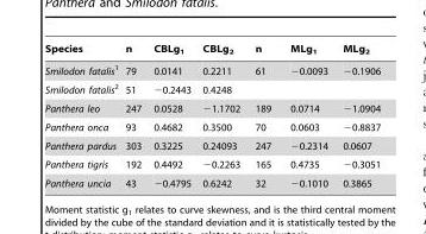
<table><thead><tr><td>Species</td><td>n</td><td>CBLg<sub>1</sub></td><td>CBLg<sub>2</sub></td><td>n</td><td>MLg<sub>1</sub></td><td>MLg<sub>2</sub></td></tr></thead><tbody><tr><td>Smilodon fatalis1</td><td>79</td><td>0.0141</td><td>0.2211</td><td>61</td><td>−0.0093</td><td>−0.1906</td></tr><tr><td>Smilodon fatalis2</td><td>51</td><td>−0.2443</td><td>0.4248</td><td></td><td></td><td></td></tr><tr><td>Panthera leo</td><td>247</td><td>0.0528</td><td>−1.1702</td><td>189</td><td>0.0714</td><td>−1.0904</td></tr><tr><td>Panthera onca</td><td>93</td><td>0.4682</td><td>0.3500</td><td>70</td><td>0.0603</td><td>−0.8837</td></tr><tr><td>Panthera pardus</td><td>303</td><td>0.3225</td><td>0.24093</td><td>247</td><td>−0.2314</td><td>0.0607</td></tr><tr><td>Panthera tigris</td><td>192</td><td>0.4492</td><td>−0.2263</td><td>165</td><td>0.4735</td><td>−0.3051</td></tr><tr><td>Panthera uncia</td><td>43</td><td>−0.4795</td><td>0.6242</td><td>32</td><td>−0.1010</td><td>0.3865</td></tr></tbody></table>